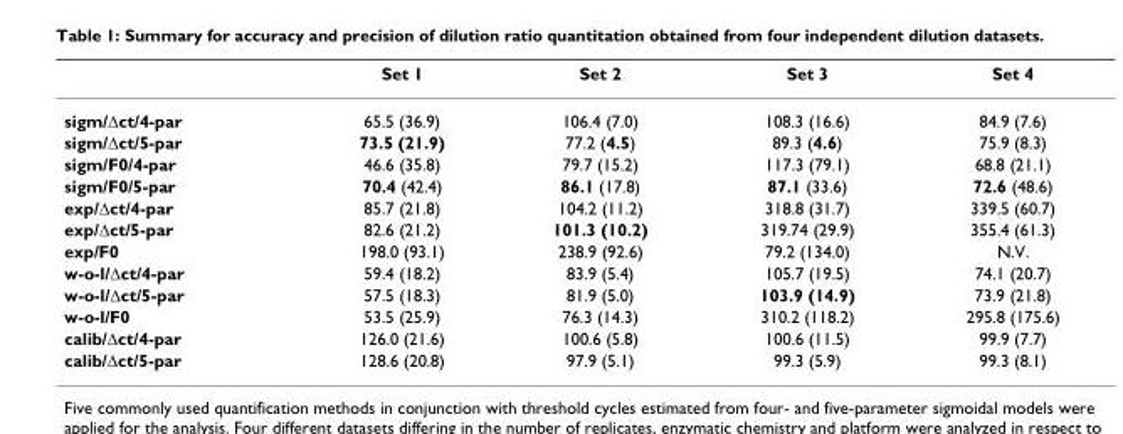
<table><thead><tr><td></td><td>Set 1</td><td>Set 2</td><td>Set 3</td><td>Set 4</td></tr></thead><tbody><tr><td>sigm/Δct/4-par</td><td>65.5 (36.9)</td><td>106.4 (7.0)</td><td>108.3 (16.6)</td><td>84.9 (7.6)</td></tr><tr><td>sigm/Δct/5-par</td><td>73.5 (21.9)</td><td>77.2 (4.5)</td><td>89.3 (4.6)</td><td>75.9 (8.3)</td></tr><tr><td>sigm/F0/4-par</td><td>46.6 (35.8)</td><td>79.7 (15.2)</td><td>117.3 (79.1)</td><td>68.8 (21.1)</td></tr><tr><td>sigm/F0/5-par</td><td>70.4 (42.4)</td><td>86.1 (17.8)</td><td>87.1 (33.6)</td><td>72.6 (48.6)</td></tr><tr><td>exp/Δct/4-par</td><td>85.7 (21.8)</td><td>104.2 (11.2)</td><td>318.8 (31.7)</td><td>339.5 (60.7)</td></tr><tr><td>exp/Δct/5-par</td><td>82.6 (21.2)</td><td>101.3 (10.2)</td><td>319.74 (29.9)</td><td>355.4 (61.3)</td></tr><tr><td>exp/F0</td><td>198.0 (93.1)</td><td>238.9 (92.6)</td><td>79.2 (134.0)</td><td>N.V.</td></tr><tr><td>w-o-l/Δct/4-par</td><td>59.4 (18.2)</td><td>83.9 (5.4)</td><td>105.7 (19.5)</td><td>74.1 (20.7)</td></tr><tr><td>w-o-l/Δct/5-par</td><td>57.5 (18.3)</td><td>81.9 (5.0)</td><td>103.9 (14.9)</td><td>73.9 (21.8)</td></tr><tr><td>w-o-l/F0</td><td>53.5 (25.9)</td><td>76.3 (14.3)</td><td>310.2 (118.2)</td><td>295.8 (175.6)</td></tr><tr><td>calib/Δct/4-par</td><td>126.0 (21.6)</td><td>100.6 (5.8)</td><td>100.6 (11.5)</td><td>99.9 (7.7)</td></tr><tr><td>calib/Δct/5-par</td><td>128.6 (20.8)</td><td>97.9 (5.1)</td><td>99.3 (5.9)</td><td>99.3 (8.1)</td></tr></tbody></table>